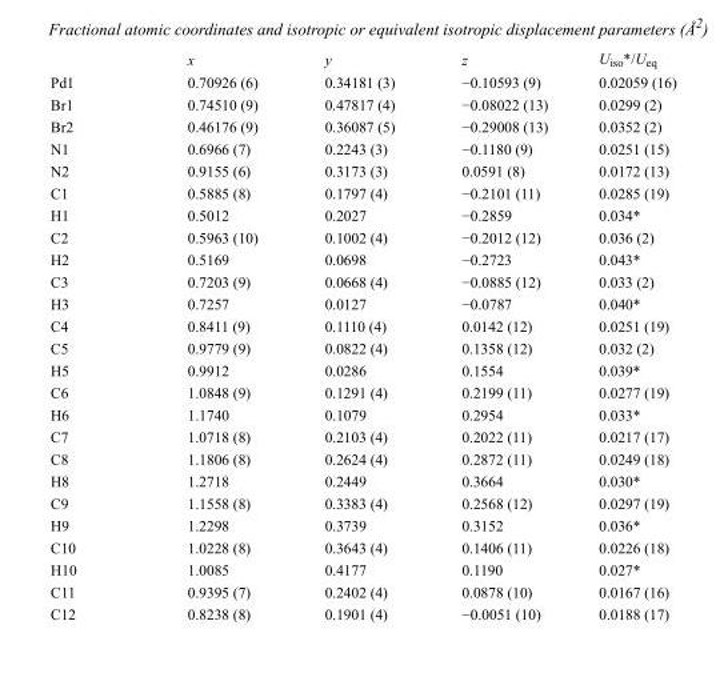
<table><thead><tr><td></td><td>x</td><td>y</td><td>z</td><td>U<sub>iso</sub>*/U<sub>eq</sub></td></tr></thead><tbody><tr><td>Pd1</td><td>0.70926 (6)</td><td>0.34181 (3)</td><td>−0.10593 (9)</td><td>0.02059 (16)</td></tr><tr><td>Br1</td><td>0.74510 (9)</td><td>0.47817 (4)</td><td>−0.08022 (13)</td><td>0.0299 (2)</td></tr><tr><td>Br2</td><td>0.46176 (9)</td><td>0.36087 (5)</td><td>−0.29008 (13)</td><td>0.0352 (2)</td></tr><tr><td>N1</td><td>0.6966 (7)</td><td>0.2243 (3)</td><td>−0.1180 (9)</td><td>0.0251 (15)</td></tr><tr><td>N2</td><td>0.9155 (6)</td><td>0.3173 (3)</td><td>0.0591 (8)</td><td>0.0172 (13)</td></tr><tr><td>C1</td><td>0.5885 (8)</td><td>0.1797 (4)</td><td>−0.2101 (11)</td><td>0.0285 (19)</td></tr><tr><td>H1</td><td>0.5012</td><td>0.2027</td><td>−0.2859</td><td>0.034*</td></tr><tr><td>C2</td><td>0.5963 (10)</td><td>0.1002 (4)</td><td>−0.2012 (12)</td><td>0.036 (2)</td></tr><tr><td>H2</td><td>0.5169</td><td>0.0698</td><td>−0.2723</td><td>0.043*</td></tr><tr><td>C3</td><td>0.7203 (9)</td><td>0.0668 (4)</td><td>−0.0885 (12)</td><td>0.033 (2)</td></tr><tr><td>H3</td><td>0.7257</td><td>0.0127</td><td>−0.0787</td><td>0.040*</td></tr><tr><td>C4</td><td>0.8411 (9)</td><td>0.1110 (4)</td><td>0.0142 (12)</td><td>0.0251 (19)</td></tr><tr><td>C5</td><td>0.9779 (9)</td><td>0.0822 (4)</td><td>0.1358 (12)</td><td>0.032 (2)</td></tr><tr><td>H5</td><td>0.9912</td><td>0.0286</td><td>0.1554</td><td>0.039*</td></tr><tr><td>C6</td><td>1.0848 (9)</td><td>0.1291 (4)</td><td>0.2199 (11)</td><td>0.0277 (19)</td></tr><tr><td>H6</td><td>1.1740</td><td>0.1079</td><td>0.2954</td><td>0.033*</td></tr><tr><td>C7</td><td>1.0718 (8)</td><td>0.2103 (4)</td><td>0.2022 (11)</td><td>0.0217 (17)</td></tr><tr><td>C8</td><td>1.1806 (8)</td><td>0.2624 (4)</td><td>0.2872 (11)</td><td>0.0249 (18)</td></tr><tr><td>H8</td><td>1.2718</td><td>0.2449</td><td>0.3664</td><td>0.030*</td></tr><tr><td>C9</td><td>1.1558 (8)</td><td>0.3383 (4)</td><td>0.2568 (12)</td><td>0.0297 (19)</td></tr><tr><td>H9</td><td>1.2298</td><td>0.3739</td><td>0.3152</td><td>0.036*</td></tr><tr><td>C10</td><td>1.0228 (8)</td><td>0.3643 (4)</td><td>0.1406 (11)</td><td>0.0226 (18)</td></tr><tr><td>H10</td><td>1.0085</td><td>0.4177</td><td>0.1190</td><td>0.027*</td></tr><tr><td>C11</td><td>0.9395 (7)</td><td>0.2402 (4)</td><td>0.0878 (10)</td><td>0.0167 (16)</td></tr><tr><td>C12</td><td>0.8238 (8)</td><td>0.1901 (4)</td><td>−0.0051 (10)</td><td>0.0188 (17)</td></tr></tbody></table>